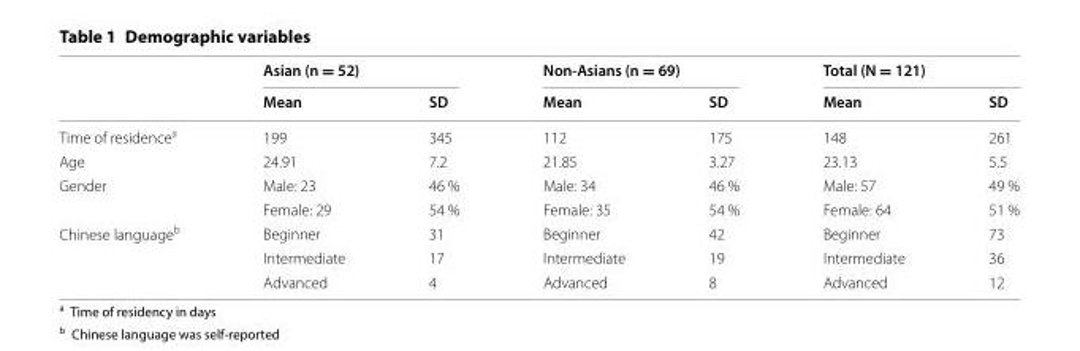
<table><thead><tr><td rowspan="2"></td><td colspan="2">Asian (n = 52)</td><td colspan="2">Non-Asians (n = 69)</td><td colspan="2">Total (N = 121)</td></tr><tr><td>Mean</td><td>SD</td><td>Mean</td><td>SD</td><td>Mean</td><td>SD</td></tr></thead><tbody><tr><td>Time of residence<sup>a</sup></td><td>199</td><td>345</td><td>112</td><td>175</td><td>148</td><td>261</td></tr><tr><td>Age</td><td>24.91</td><td>7.2</td><td>21.85</td><td>3.27</td><td>23.13</td><td>5.5</td></tr><tr><td rowspan="2">Gender</td><td>Male: 23</td><td>46 %</td><td>Male: 34</td><td>46 %</td><td>Male: 57</td><td>49 %</td></tr><tr><td>Female: 29</td><td>54 %</td><td>Female: 35</td><td>54 %</td><td>Female: 64</td><td>51 %</td></tr><tr><td rowspan="3">Chinese language<sup>b</sup></td><td>Beginner</td><td>31</td><td>Beginner</td><td>42</td><td>Beginner</td><td>73</td></tr><tr><td>Intermediate</td><td>17</td><td>Intermediate</td><td>19</td><td>Intermediate</td><td>36</td></tr><tr><td>Advanced</td><td>4</td><td>Advanced</td><td>8</td><td>Advanced</td><td>12</td></tr></tbody></table>